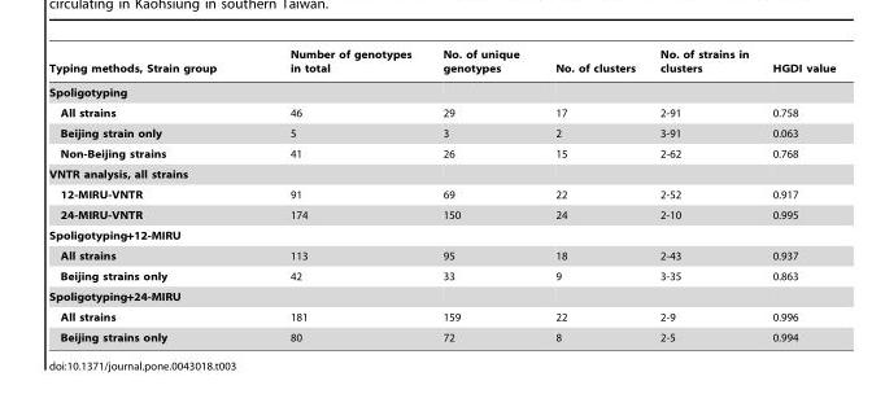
<table><thead><tr><td>Typing methods, Strain group</td><td>Number of genotypes in total</td><td>No. of unique genotypes</td><td>No. of clusters</td><td>No. of strains in clusters</td><td>HGDI value</td></tr></thead><tbody><tr><td colspan="6">Spoligotyping</td></tr><tr><td>All strains</td><td>46</td><td>29</td><td>17</td><td>2-91</td><td>0.758</td></tr><tr><td>Beijing strain only</td><td>5</td><td>3</td><td>2</td><td>3-91</td><td>0.063</td></tr><tr><td>Non-Beijing strains</td><td>41</td><td>26</td><td>15</td><td>2-62</td><td>0.768</td></tr><tr><td colspan="6">VNTR analysis, all strains</td></tr><tr><td>12-MIRU-VNTR</td><td>91</td><td>69</td><td>22</td><td>2-52</td><td>0.917</td></tr><tr><td>24-MIRU-VNTR</td><td>174</td><td>150</td><td>24</td><td>2-10</td><td>0.995</td></tr><tr><td colspan="6">Spoligotyping+12-MIRU</td></tr><tr><td>All strains</td><td>113</td><td>95</td><td>18</td><td>2-43</td><td>0.937</td></tr><tr><td>Beijing strains only</td><td>42</td><td>33</td><td>9</td><td>3-35</td><td>0.863</td></tr><tr><td colspan="6">Spoligotyping+24-MIRU</td></tr><tr><td>All strains</td><td>181</td><td>159</td><td>22</td><td>2-9</td><td>0.996</td></tr><tr><td>Beijing strains only</td><td>80</td><td>72</td><td>8</td><td>2-5</td><td>0.994</td></tr></tbody></table>